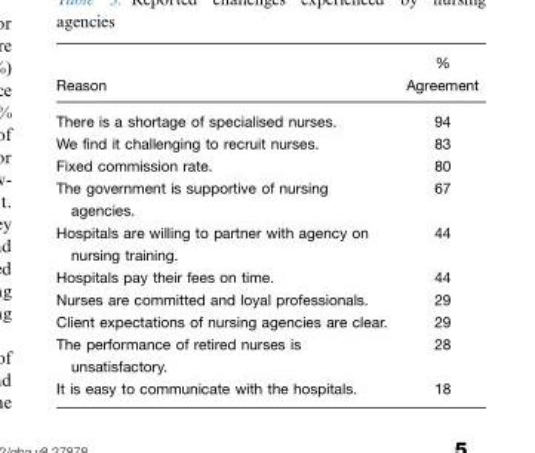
<table><thead><tr><td>Reason</td><td>% Agreement</td></tr></thead><tbody><tr><td>There is a shortage of specialised nurses.</td><td>94</td></tr><tr><td>We find it challenging to recruit nurses.</td><td>83</td></tr><tr><td>Fixed commission rate.</td><td>80</td></tr><tr><td>The government is supportive of nursing agencies.</td><td>67</td></tr><tr><td>Hospitals are willing to partner with agency on nursing training.</td><td>44</td></tr><tr><td>Hospitals pay their fees on time.</td><td>44</td></tr><tr><td>Nurses are committed and loyal professionals.</td><td>29</td></tr><tr><td>Client expectations of nursing agencies are clear.</td><td>29</td></tr><tr><td>The performance of retired nurses is unsatisfactory.</td><td>28</td></tr><tr><td>It is easy to communicate with the hospitals.</td><td>18</td></tr></tbody></table>